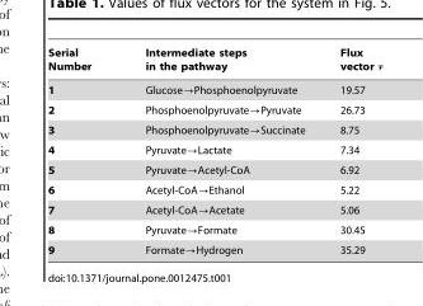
<table><thead><tr><td>Serial Number</td><td>Intermediate steps in the pathway</td><td>Flux vector</td></tr></thead><tbody><tr><td>1</td><td>Glucose?Phosphoenolpyruvate</td><td>19.57</td></tr><tr><td>2</td><td>Phosphoenolpyruvate?Pyruvate</td><td>26.73</td></tr><tr><td>3</td><td>Phosphoenolpyruvate?Succinate</td><td>8.75</td></tr><tr><td>4</td><td>Pyruvate?Lactate</td><td>7.34</td></tr><tr><td>5</td><td>Pyruvate?Acetyl-CoA</td><td>6.92</td></tr><tr><td>6</td><td>Acetyl-CoA?Ethanol</td><td>5.22</td></tr><tr><td>7</td><td>Acetyl-CoA?Acetate</td><td>5.06</td></tr><tr><td>8</td><td>Pyruvate?Formate</td><td>30.45</td></tr><tr><td>9</td><td>Formate?Hydrogen</td><td>35.29</td></tr></tbody></table>